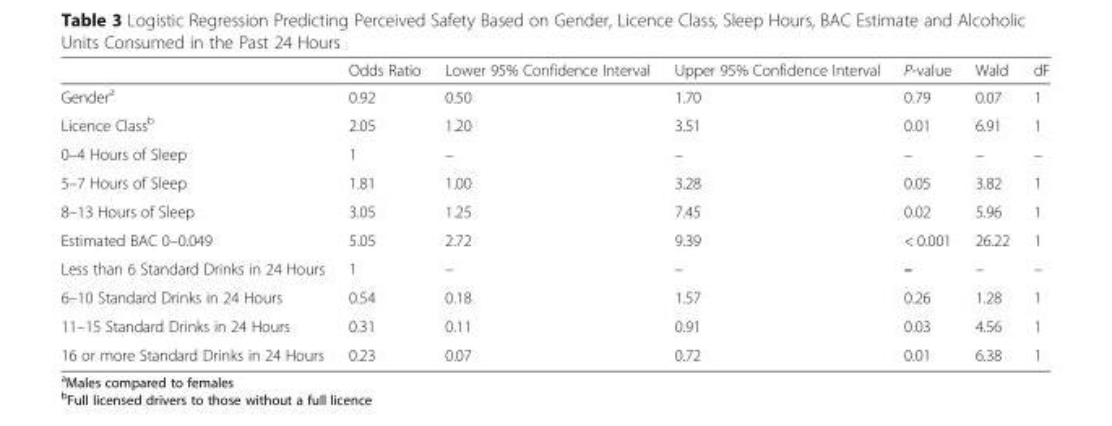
<table><thead><tr><td></td><td>Odds Ratio</td><td>Lower 95% Confidence Interval</td><td>Upper 95% Confidence Interval</td><td>P-value</td><td>Wald</td><td>dF</td></tr></thead><tbody><tr><td>Gender<sup>a</sup></td><td>0.92</td><td>0.50</td><td>1.70</td><td>0.79</td><td>0.07</td><td>1</td></tr><tr><td>Licence Class<sup>b</sup></td><td>2.05</td><td>1.20</td><td>3.51</td><td>0.01</td><td>6.91</td><td>1</td></tr><tr><td>0–4 Hours of Sleep</td><td>1</td><td>–</td><td>–</td><td>–</td><td>–</td><td>–</td></tr><tr><td>5–7 Hours of Sleep</td><td>1.81</td><td>1.00</td><td>3.28</td><td>0.05</td><td>3.82</td><td>1</td></tr><tr><td>8–13 Hours of Sleep</td><td>3.05</td><td>1.25</td><td>7.45</td><td>0.02</td><td>5.96</td><td>1</td></tr><tr><td>Estimated BAC 0–0.049</td><td>5.05</td><td>2.72</td><td>9.39</td><td>&lt; 0.001</td><td>26.22</td><td>1</td></tr><tr><td>Less than 6 Standard Drinks in 24 Hours</td><td>1</td><td>–</td><td>–</td><td>–</td><td>–</td><td>–</td></tr><tr><td>6–10 Standard Drinks in 24 Hours</td><td>0.54</td><td>0.18</td><td>1.57</td><td>0.26</td><td>1.28</td><td>1</td></tr><tr><td>11–15 Standard Drinks in 24 Hours</td><td>0.31</td><td>0.11</td><td>0.91</td><td>0.03</td><td>4.56</td><td>1</td></tr><tr><td>16 or more Standard Drinks in 24 Hours</td><td>0.23</td><td>0.07</td><td>0.72</td><td>0.01</td><td>6.38</td><td>1</td></tr></tbody></table>